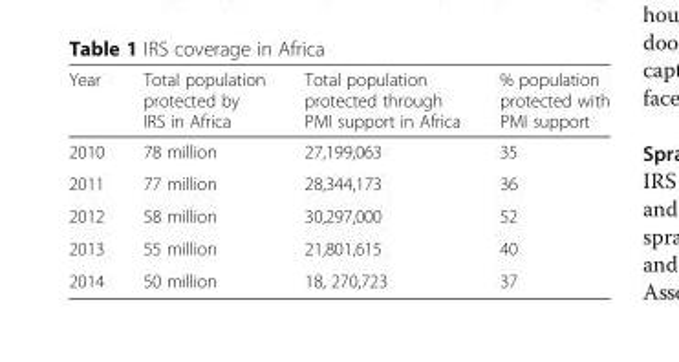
<table><thead><tr><td>Year</td><td>Total population protected by IRS in Africa</td><td>Total population protected through PMI support in Africa</td><td>% population protected with PMI support</td></tr></thead><tbody><tr><td>2010</td><td>78 million</td><td>27,199,063</td><td>35</td></tr><tr><td>2011</td><td>77 million</td><td>28,344,173</td><td>36</td></tr><tr><td>2012</td><td>58 million</td><td>30,297,000</td><td>52</td></tr><tr><td>2013</td><td>55 million</td><td>21,801,615</td><td>40</td></tr><tr><td>2014</td><td>50 million</td><td>18, 270,723</td><td>37</td></tr></tbody></table>